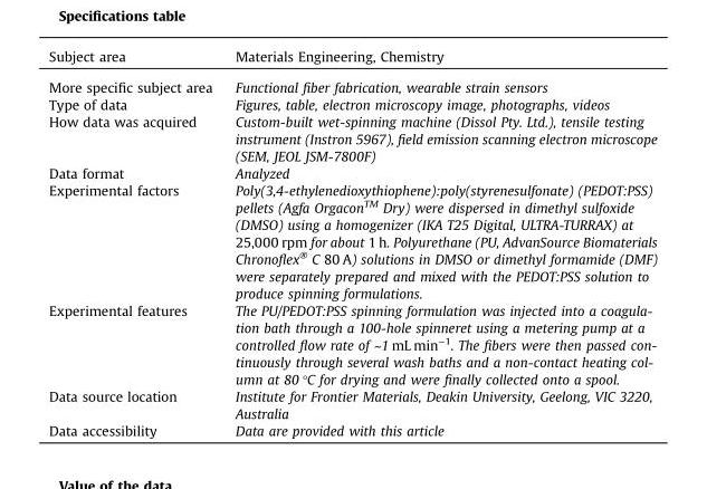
<table><thead><tr><td>Subject area</td><td>Materials Engineering, Chemistry</td></tr></thead><tbody><tr><td>More specific subject area</td><td>Functional fiber fabrication, wearable strain sensors</td></tr><tr><td>Type of data</td><td>Figures, table, electron microscopy image, photographs, videos</td></tr><tr><td>How data was acquired</td><td>Custom-built wet-spinning machine (Dissol Pty. Ltd.), tensile testing instrument (Instron 5967), field emission scanning electron microscope (SEM, JEOL JSM-7800F)</td></tr><tr><td>Data format</td><td>Analyzed</td></tr><tr><td>Experimental factors</td><td>Poly(3,4-ethylenedioxythiophene):poly(styrenesulfonate) (PEDOT:PSS) pellets (Agfa Orgacon<sup>TM</sup> Dry) were dispersed in dimethyl sulfoxide (DMSO) using a homogenizer (IKA T25 Digital, ULTRA-TURRAX) at 25,000 rpm for about 1 h. Polyurethane (PU, AdvanSource Biomaterials Chronoflex<sup>®</sup> C 80 A) solutions in DMSO or dimethyl formamide (DMF) were separately prepared and mixed with the PEDOT:PSS solution to produce spinning formulations.</td></tr><tr><td>Experimental features</td><td>The PU/PEDOT:PSS spinning formulation was injected into a coagula- tion bath through a 100-hole spinneret using a metering pump at a controlled flow rate of ~1 mL min−1. The fibers were then passed con- tinuously through several wash baths and a non-contact heating col- umn at 80 °C for drying and were finally collected onto a spool.</td></tr><tr><td>Data source location</td><td>Institute for Frontier Materials, Deakin University, Geelong, VIC 3220, Australia</td></tr><tr><td>Data accessibility</td><td>Data are provided with this article</td></tr></tbody></table>